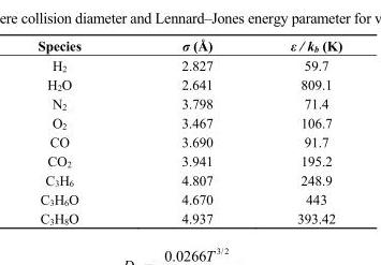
<table><thead><tr><td>Species</td><td>σ (Å)</td><td>ε / k<sub>b</sub> (K)</td></tr></thead><tbody><tr><td>H<sub>2</sub></td><td>2.827</td><td>59.7</td></tr><tr><td>H<sub>2</sub>O</td><td>2.641</td><td>809.1</td></tr><tr><td>N<sub>2</sub></td><td>3.798</td><td>71.4</td></tr><tr><td>O<sub>2</sub></td><td>3.467</td><td>106.7</td></tr><tr><td>CO</td><td>3.690</td><td>91.7</td></tr><tr><td>CO<sub>2</sub></td><td>3.941</td><td>195.2</td></tr><tr><td>C<sub>3</sub>H<sub>6</sub></td><td>4.807</td><td>248.9</td></tr><tr><td>C<sub>3</sub>H<sub>6</sub>O</td><td>4.670</td><td>443</td></tr><tr><td>C<sub>3</sub>H<sub>8</sub>O</td><td>4.937</td><td>393.42</td></tr></tbody></table>